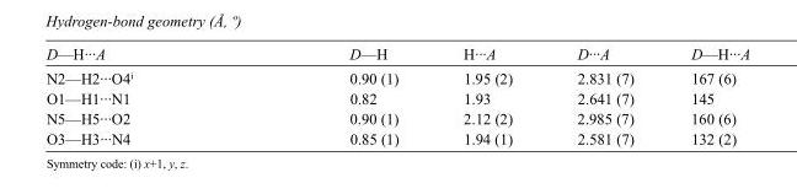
<table><tbody><tr><td>D—H···A</td><td>D—H</td><td>H···A</td><td>D···A</td><td>D—H···A</td></tr><tr><td>N2—H2···O4<sup>i</sup></td><td>0.90 (1)</td><td>1.95 (2)</td><td>2.831 (7)</td><td>167 (6)</td></tr><tr><td>O1—H1···N1</td><td>0.82</td><td>1.93</td><td>2.641 (7)</td><td>145</td></tr><tr><td>N5—H5···O2</td><td>0.90 (1)</td><td>2.12 (2)</td><td>2.985 (7)</td><td>160 (6)</td></tr><tr><td>O3—H3···N4</td><td>0.85 (1)</td><td>1.94 (1)</td><td>2.581 (7)</td><td>132 (2)</td></tr></tbody></table>